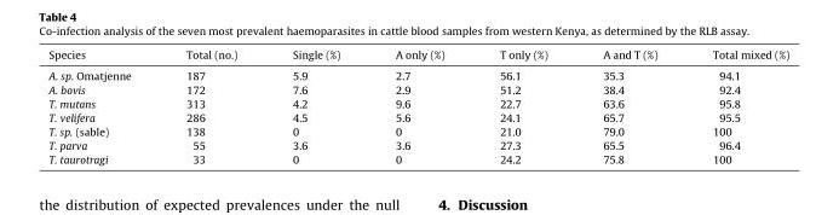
<table><thead><tr><td>Species</td><td>Total (no.)</td><td>Single (%)</td><td>A only (%)</td><td>T only (%)</td><td>A and T (%)</td><td>Total mixed (%)</td></tr></thead><tbody><tr><td>A. sp. Omatjenne</td><td>187</td><td>5.9</td><td>2.7</td><td>56.1</td><td>35.3</td><td>94.1</td></tr><tr><td>A. bovis</td><td>172</td><td>7.6</td><td>2.9</td><td>51.2</td><td>38.4</td><td>92.4</td></tr><tr><td>T. mutans</td><td>313</td><td>4.2</td><td>9.6</td><td>22.7</td><td>63.6</td><td>95.8</td></tr><tr><td>T. velifera</td><td>286</td><td>4.5</td><td>5.6</td><td>24.1</td><td>65.7</td><td>95.5</td></tr><tr><td>T. sp. (sable)</td><td>138</td><td>0</td><td>0</td><td>21.0</td><td>79.0</td><td>100</td></tr><tr><td>T. parva</td><td>55</td><td>3.6</td><td>3.6</td><td>27.3</td><td>65.5</td><td>96.4</td></tr><tr><td>T. taurotragi</td><td>33</td><td>0</td><td>0</td><td>24.2</td><td>75.8</td><td>100</td></tr></tbody></table>